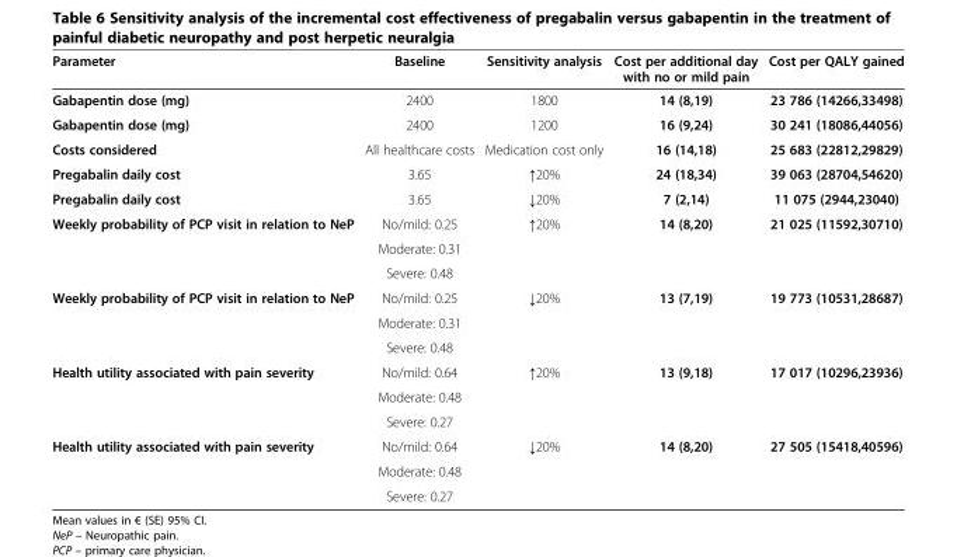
<table><thead><tr><td>Parameter</td><td>Baseline</td><td>Sensitivity analysis</td><td>Cost per additional day with no or mild pain</td><td>Cost per QALY gained</td></tr></thead><tbody><tr><td>Gabapentin dose (mg)</td><td>2400</td><td>1800</td><td>14 (8,19)</td><td>23 786 (14266,33498)</td></tr><tr><td>Gabapentin dose (mg)</td><td>2400</td><td>1200</td><td>16 (9,24)</td><td>30 241 (18086,44056)</td></tr><tr><td>Costs considered</td><td>All healthcare costs</td><td>Medication cost only</td><td>16 (14,18)</td><td>25 683 (22812,29829)</td></tr><tr><td>Pregabalin daily cost</td><td>3.65</td><td>↑20%</td><td>24 (18,34)</td><td>39 063 (28704,54620)</td></tr><tr><td>Pregabalin daily cost</td><td>3.65</td><td>↓20%</td><td>7 (2,14)</td><td>11 075 (2944,23040)</td></tr><tr><td rowspan="3">Weekly probability of PCP visit in relation to NeP</td><td>No/mild: 0.25</td><td rowspan="3">↑20%</td><td rowspan="3">14 (8,20)</td><td rowspan="3">21 025 (11592,30710)</td></tr><tr><td>Moderate: 0.31</td></tr><tr><td>Severe: 0.48</td></tr><tr><td rowspan="3">Weekly probability of PCP visit in relation to NeP</td><td>No/mild: 0.25</td><td rowspan="3">↓20%</td><td rowspan="3">13 (7,19)</td><td rowspan="3">19 773 (10531,28687)</td></tr><tr><td>Moderate: 0.31</td></tr><tr><td>Severe: 0.48</td></tr><tr><td rowspan="3">Health utility associated with pain severity</td><td>No/mild: 0.64</td><td rowspan="3">↑20%</td><td rowspan="3">13 (9,18)</td><td rowspan="3">17 017 (10296,23936)</td></tr><tr><td>Moderate: 0.48</td></tr><tr><td>Severe: 0.27</td></tr><tr><td rowspan="3">Health utility associated with pain severity</td><td>No/mild: 0.64</td><td rowspan="2">↓20%</td><td rowspan="2">14 (8,20)</td><td rowspan="2">27 505 (15418,40596)</td></tr><tr><td>Moderate: 0.48</td></tr><tr><td>Severe: 0.27</td><td></td><td></td><td></td></tr></tbody></table>